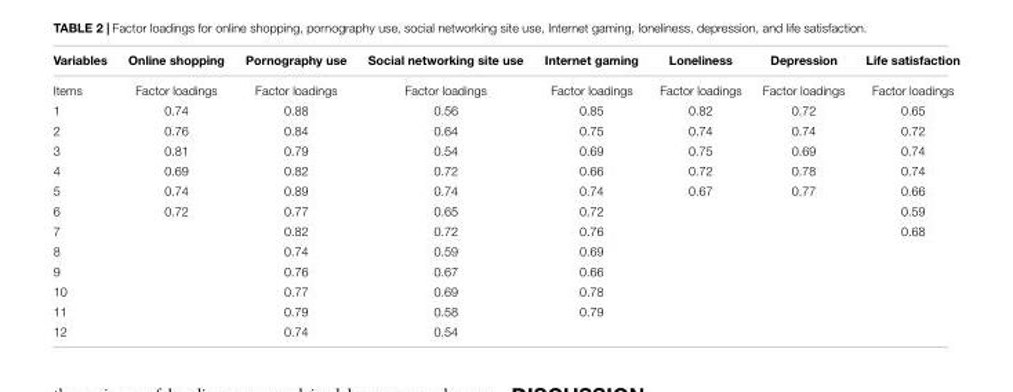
<table><thead><tr><td>Variables</td><td>Online shopping</td><td>Pornography use</td><td>Social networking site use</td><td>Internet gaming</td><td>Loneliness</td><td>Depression</td><td>Life satisfaction</td></tr></thead><tbody><tr><td>Items</td><td>Factor loadings</td><td>Factor loadings</td><td>Factor loadings</td><td>Factor loadings</td><td>Factor loadings</td><td>Factor loadings</td><td>Factor loadings</td></tr><tr><td>1</td><td>0.74</td><td>0.88</td><td>0.56</td><td>0.85</td><td>0.82</td><td>0.72</td><td>0.65</td></tr><tr><td>2</td><td>0.76</td><td>0.84</td><td>0.64</td><td>0.75</td><td>0.74</td><td>0.74</td><td>0.72</td></tr><tr><td>3</td><td>0.81</td><td>0.79</td><td>0.54</td><td>0.69</td><td>0.75</td><td>0.69</td><td>0.74</td></tr><tr><td>4</td><td>0.69</td><td>0.82</td><td>0.72</td><td>0.66</td><td>0.72</td><td>0.78</td><td>0.74</td></tr><tr><td>5</td><td>0.74</td><td>0.89</td><td>0.74</td><td>0.74</td><td>0.67</td><td>0.77</td><td>0.66</td></tr><tr><td>6</td><td>0.72</td><td>0.77</td><td>0.65</td><td>0.72</td><td></td><td></td><td>0.59</td></tr><tr><td>7</td><td></td><td>0.82</td><td>0.72</td><td>0.76</td><td></td><td></td><td>0.68</td></tr><tr><td>8</td><td></td><td>0.74</td><td>0.59</td><td>0.69</td><td></td><td></td><td></td></tr><tr><td>9</td><td></td><td>0.76</td><td>0.67</td><td>0.66</td><td></td><td></td><td></td></tr><tr><td>10</td><td></td><td>0.77</td><td>0.69</td><td>0.78</td><td></td><td></td><td></td></tr><tr><td>11</td><td></td><td>0.79</td><td>0.58</td><td>0.79</td><td></td><td></td><td></td></tr><tr><td>12</td><td></td><td>0.74</td><td>0.54</td><td></td><td></td><td></td><td></td></tr></tbody></table>